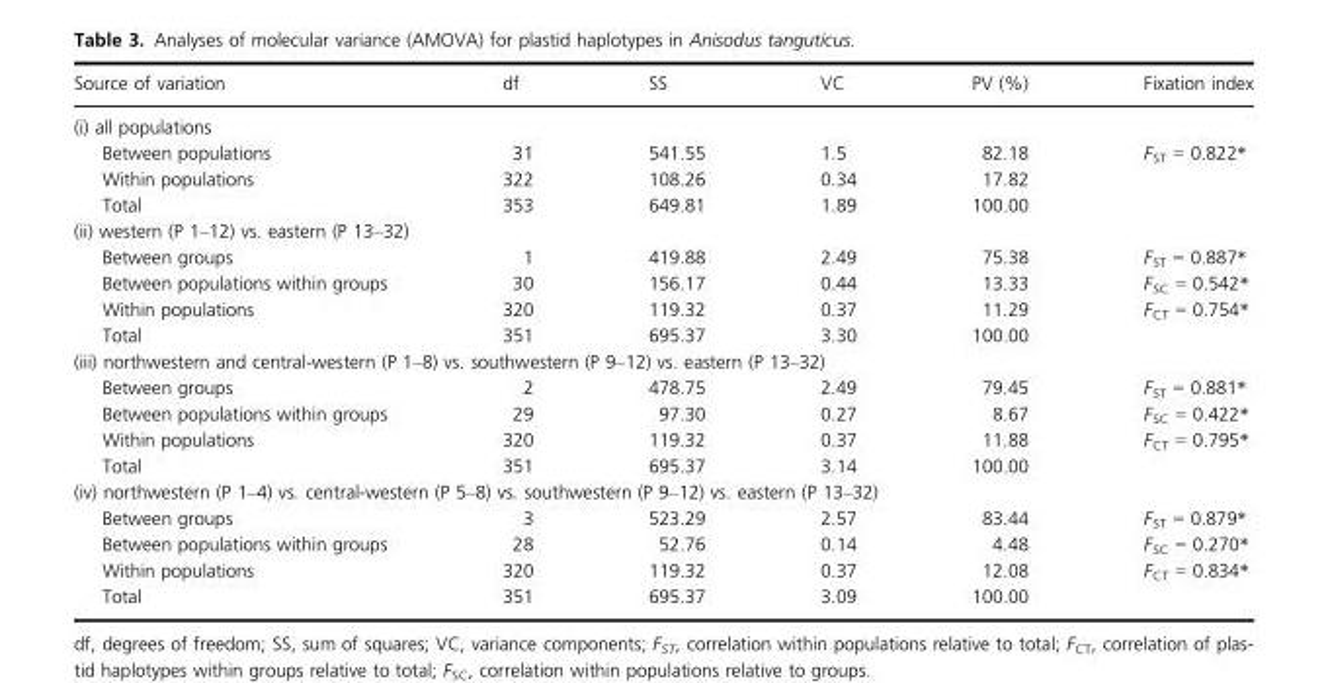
<table><thead><tr><td>Source of variation</td><td>df</td><td>SS</td><td>VC</td><td>PV (%)</td><td>Fixation index</td></tr></thead><tbody><tr><td colspan="6">(i) all populations</td></tr><tr><td>Between populations</td><td>31</td><td>541.55</td><td>1.5</td><td>82.18</td><td rowspan="3">FST = 0.822*</td></tr><tr><td>Within populations</td><td>322</td><td>108.26</td><td>0.34</td><td>17.82</td></tr><tr><td>Total</td><td>353</td><td>649.81</td><td>1.89</td><td>100.00</td></tr><tr><td colspan="6">(ii) western (P 1–12) vs. eastern (P 13–32)</td></tr><tr><td>Between groups</td><td>1</td><td>419.88</td><td>2.49</td><td>75.38</td><td rowspan="4">FST = 0.887* FSC = 0.542* FCT = 0.754*</td></tr><tr><td>Between populations within groups</td><td>30</td><td>156.17</td><td>0.44</td><td>13.33</td></tr><tr><td>Within populations</td><td>320</td><td>119.32</td><td>0.37</td><td>11.29</td></tr><tr><td>Total</td><td>351</td><td>695.37</td><td>3.30</td><td>100.00</td></tr><tr><td colspan="6">(iii) northwestern and central-western (P 1–8) vs. southwestern (P 9–12) vs. eastern (P 13–32)</td></tr><tr><td>Between groups</td><td>2</td><td>478.75</td><td>2.49</td><td>79.45</td><td rowspan="4">FST = 0.881* FSC = 0.422* FCT = 0.795*</td></tr><tr><td>Between populations within groups</td><td>29</td><td>97.30</td><td>0.27</td><td>8.67</td></tr><tr><td>Within populations</td><td>320</td><td>119.32</td><td>0.37</td><td>11.88</td></tr><tr><td>Total</td><td>351</td><td>695.37</td><td>3.14</td><td>100.00</td></tr><tr><td colspan="6">(iv) northwestern (P 1–4) vs. central-western (P 5–8) vs. southwestern (P 9–12) vs. eastern (P 13–32)</td></tr><tr><td>Between groups</td><td>3</td><td>523.29</td><td>2.57</td><td>83.44</td><td rowspan="4">FST = 0.879* FSC = 0.270* FCT = 0.834*</td></tr><tr><td>Between populations within groups</td><td>28</td><td>52.76</td><td>0.14</td><td>4.48</td></tr><tr><td>Within populations</td><td>320</td><td>119.32</td><td>0.37</td><td>12.08</td></tr><tr><td>Total</td><td>351</td><td>695.37</td><td>3.09</td><td>100.00</td></tr></tbody></table>